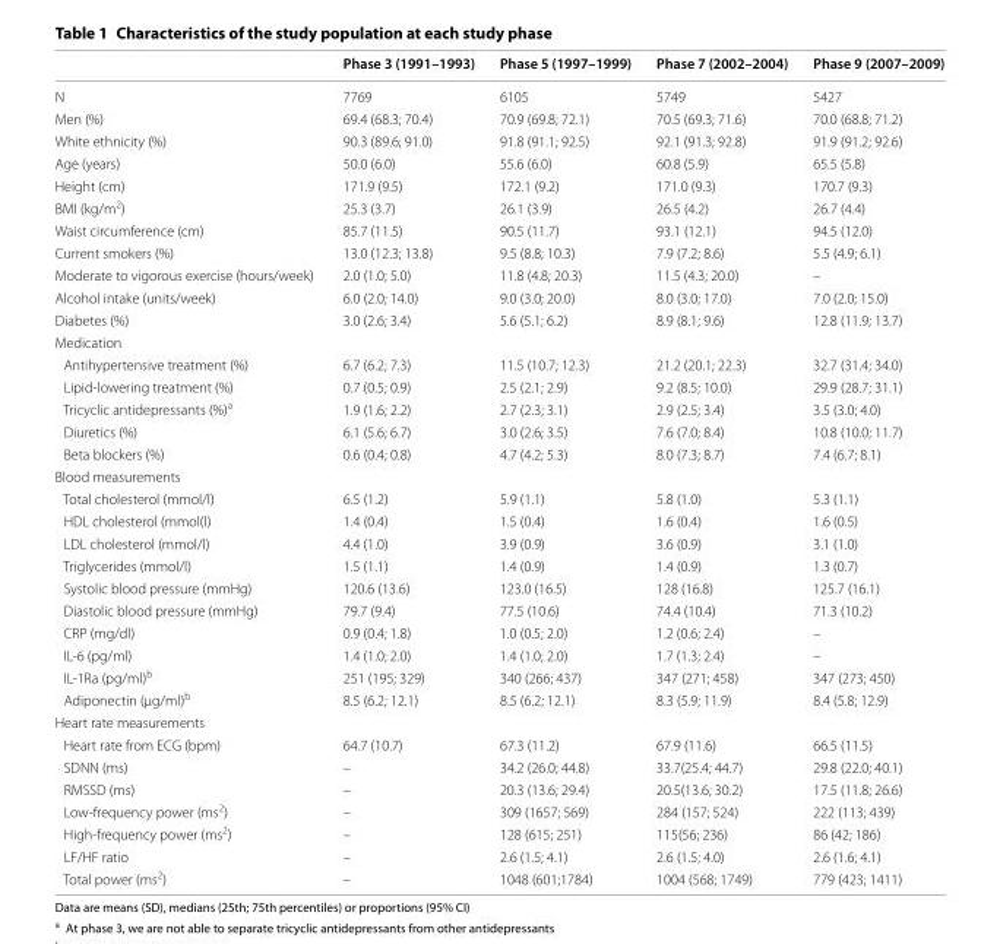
<table><thead><tr><td></td><td>Phase 3 (1991–1993)</td><td>Phase 5 (1997–1999)</td><td>Phase 7 (2002–2004)</td><td>Phase 9 (2007–2009)</td></tr></thead><tbody><tr><td>N</td><td>7769</td><td>6105</td><td>5749</td><td>5427</td></tr><tr><td>Men (%)</td><td>69.4 (68.3; 70.4)</td><td>70.9 (69.8; 72.1)</td><td>70.5 (69.3; 71.6)</td><td>70.0 (68.8; 71.2)</td></tr><tr><td>White ethnicity (%)</td><td>90.3 (89.6; 91.0)</td><td>91.8 (91.1; 92.5)</td><td>92.1 (91.3; 92.8)</td><td>91.9 (91.2; 92.6)</td></tr><tr><td>Age (years)</td><td>50.0 (6.0)</td><td>55.6 (6.0)</td><td>60.8 (5.9)</td><td>65.5 (5.8)</td></tr><tr><td>Height (cm)</td><td>171.9 (9.5)</td><td>172.1 (9.2)</td><td>171.0 (9.3)</td><td>170.7 (9.3)</td></tr><tr><td>BMI (kg/m<sup>2</sup>)</td><td>25.3 (3.7)</td><td>26.1 (3.9)</td><td>26.5 (4.2)</td><td>26.7 (4.4)</td></tr><tr><td>Waist circumference (cm)</td><td>85.7 (11.5)</td><td>90.5 (11.7)</td><td>93.1 (12.1)</td><td>94.5 (12.0)</td></tr><tr><td>Current smokers (%)</td><td>13.0 (12.3; 13.8)</td><td>9.5 (8.8; 10.3)</td><td>7.9 (7.2; 8.6)</td><td>5.5 (4.9; 6.1)</td></tr><tr><td>Moderate to vigorous exercise (hours/week)</td><td>2.0 (1.0; 5.0)</td><td>11.8 (4.8; 20.3)</td><td>11.5 (4.3; 20.0)</td><td>–</td></tr><tr><td>Alcohol intake (units/week)</td><td>6.0 (2.0; 14.0)</td><td>9.0 (3.0; 20.0)</td><td>8.0 (3.0; 17.0)</td><td>7.0 (2.0; 15.0)</td></tr><tr><td>Diabetes (%)</td><td>3.0 (2.6; 3.4)</td><td>5.6 (5.1; 6.2)</td><td>8.9 (8.1; 9.6)</td><td>12.8 (11.9; 13.7)</td></tr><tr><td colspan="5">Medication</td></tr><tr><td>Antihypertensive treatment (%)</td><td>6.7 (6.2; 7.3)</td><td>11.5 (10.7; 12.3)</td><td>21.2 (20.1; 22.3)</td><td>32.7 (31.4; 34.0)</td></tr><tr><td>Lipid-lowering treatment (%)</td><td>0.7 (0.5; 0.9)</td><td>2.5 (2.1; 2.9)</td><td>9.2 (8.5; 10.0)</td><td>29.9 (28.7; 31.1)</td></tr><tr><td>Tricyclic antidepressants (%)<sup>a</sup></td><td>1.9 (1.6; 2.2)</td><td>2.7 (2.3; 3.1)</td><td>2.9 (2.5; 3.4)</td><td>3.5 (3.0; 4.0)</td></tr><tr><td>Diuretics (%)</td><td>6.1 (5.6; 6.7)</td><td>3.0 (2.6; 3.5)</td><td>7.6 (7.0; 8.4)</td><td>10.8 (10.0; 11.7)</td></tr><tr><td>Beta blockers (%)</td><td>0.6 (0.4; 0.8)</td><td>4.7 (4.2; 5.3)</td><td>8.0 (7.3; 8.7)</td><td>7.4 (6.7; 8.1)</td></tr><tr><td colspan="5">Blood measurements</td></tr><tr><td>Total cholesterol (mmol/l)</td><td>6.5 (1.2)</td><td>5.9 (1.1)</td><td>5.8 (1.0)</td><td>5.3 (1.1)</td></tr><tr><td>HDL cholesterol (mmol(l)</td><td>1.4 (0.4)</td><td>1.5 (0.4)</td><td>1.6 (0.4)</td><td>1.6 (0.5)</td></tr><tr><td>LDL cholesterol (mmol/l)</td><td>4.4 (1.0)</td><td>3.9 (0.9)</td><td>3.6 (0.9)</td><td>3.1 (1.0)</td></tr><tr><td>Triglycerides (mmol/l)</td><td>1.5 (1.1)</td><td>1.4 (0.9)</td><td>1.4 (0.9)</td><td>1.3 (0.7)</td></tr><tr><td>Systolic blood pressure (mmHg)</td><td>120.6 (13.6)</td><td>123.0 (16.5)</td><td>128 (16.8)</td><td>125.7 (16.1)</td></tr><tr><td>Diastolic blood pressure (mmHg)</td><td>79.7 (9.4)</td><td>77.5 (10.6)</td><td>74.4 (10.4)</td><td>71.3 (10.2)</td></tr><tr><td>CRP (mg/dl)</td><td>0.9 (0.4; 1.8)</td><td>1.0 (0.5; 2.0)</td><td>1.2 (0.6; 2.4)</td><td>–</td></tr><tr><td>IL-6 (pg/ml)</td><td>1.4 (1.0; 2.0)</td><td>1.4 (1.0; 2.0)</td><td>1.7 (1.3; 2.4)</td><td>–</td></tr><tr><td>IL-1Ra (pg/ml)<sup>b</sup></td><td>251 (195; 329)</td><td>340 (266; 437)</td><td>347 (271; 458)</td><td>347 (273; 450)</td></tr><tr><td>Adiponectin (µg/ml)<sup>b</sup></td><td>8.5 (6.2; 12.1)</td><td>8.5 (6.2; 12.1)</td><td>8.3 (5.9; 11.9)</td><td>8.4 (5.8; 12.9)</td></tr><tr><td colspan="5">Heart rate measurements</td></tr><tr><td>Heart rate from ECG (bpm)</td><td>64.7 (10.7)</td><td>67.3 (11.2)</td><td>67.9 (11.6)</td><td>66.5 (11.5)</td></tr><tr><td>SDNN (ms)</td><td>–</td><td>34.2 (26.0; 44.8)</td><td>33.7(25.4; 44.7)</td><td>29.8 (22.0; 40.1)</td></tr><tr><td>RMSSD (ms)</td><td>–</td><td>20.3 (13.6; 29.4)</td><td>20.5(13.6; 30.2)</td><td>17.5 (11.8; 26.6)</td></tr><tr><td>Low-frequency power (ms<sup>2</sup>)</td><td>–</td><td>309 (1657; 569)</td><td>284 (157; 524)</td><td>222 (113; 439)</td></tr><tr><td>High-frequency power (ms<sup>2</sup>)</td><td>–</td><td>128 (615; 251)</td><td>115(56; 236)</td><td>86 (42; 186)</td></tr><tr><td>LF/HF ratio</td><td>–</td><td>2.6 (1.5; 4.1)</td><td>2.6 (1.5; 4.0)</td><td>2.6 (1.6; 4.1)</td></tr><tr><td>Total power (ms<sup>2</sup>)</td><td>–</td><td>1048 (601;1784)</td><td>1004 (568; 1749)</td><td>779 (423; 1411)</td></tr></tbody></table>